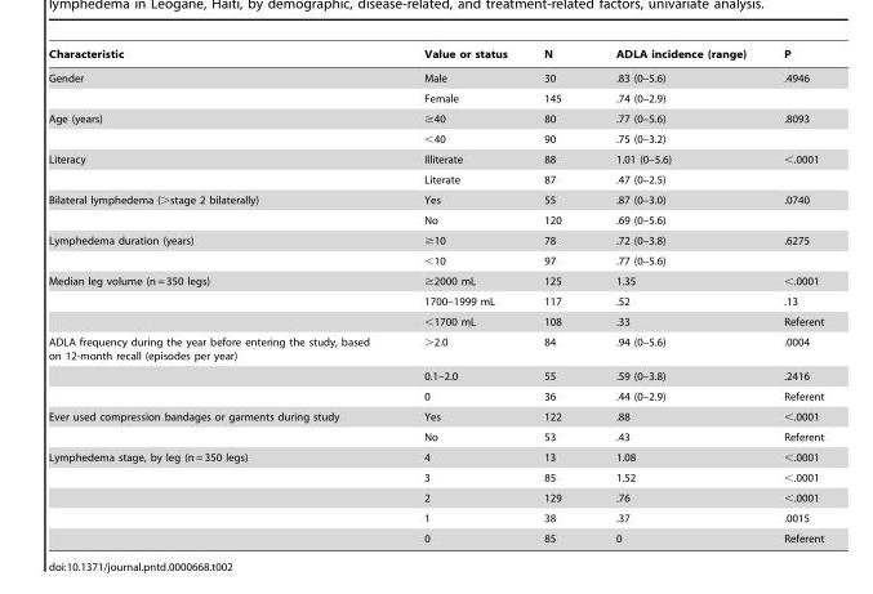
<table><thead><tr><td>Characteristic</td><td>Value or status</td><td>N</td><td>ADLA incidence (range)</td><td>P</td></tr></thead><tbody><tr><td rowspan="2">Gender</td><td>Male</td><td>30</td><td>.83 (0–5.6)</td><td>.4946</td></tr><tr><td>Female</td><td>145</td><td>.74 (0–2.9)</td><td></td></tr><tr><td rowspan="2">Age (years)</td><td>≥40</td><td>80</td><td>.77 (0–5.6)</td><td>.8093</td></tr><tr><td>&lt;40</td><td>90</td><td>.75 (0–3.2)</td><td></td></tr><tr><td rowspan="2">Literacy</td><td>Illiterate</td><td>88</td><td>1.01 (0–5.6)</td><td>&lt;.0001</td></tr><tr><td>Literate</td><td>87</td><td>.47 (0–2.5)</td><td></td></tr><tr><td rowspan="2">Bilateral lymphedema (&gt;stage 2 bilaterally)</td><td>Yes</td><td>55</td><td>.87 (0–3.0)</td><td>.0740</td></tr><tr><td>No</td><td>120</td><td>.69 (0–5.6)</td><td></td></tr><tr><td rowspan="2">Lymphedema duration (years)</td><td>≥10</td><td>78</td><td>.72 (0–3.8)</td><td>.6275</td></tr><tr><td>&lt;10</td><td>97</td><td>.77 (0–5.6)</td><td></td></tr><tr><td rowspan="3">Median leg volume (n = 350 legs)</td><td>≥2000 mL</td><td>125</td><td>1.35</td><td>&lt;.0001</td></tr><tr><td>1700–1999 mL</td><td>117</td><td>.52</td><td>.13</td></tr><tr><td>&lt;1700 mL</td><td>108</td><td>.33</td><td>Referent</td></tr><tr><td rowspan="3">ADLA frequency during the year before entering the study, based on 12-month recall (episodes per year)</td><td>&gt;2.0</td><td>84</td><td>.94 (0–5.6)</td><td>.0004</td></tr><tr><td>0.1–2.0</td><td>55</td><td>.59 (0–3.8)</td><td>.2416</td></tr><tr><td>0</td><td>36</td><td>.44 (0–2.9)</td><td>Referent</td></tr><tr><td rowspan="2">Ever used compression bandages or garments during study</td><td>Yes</td><td>122</td><td>.88</td><td>&lt;.0001</td></tr><tr><td>No</td><td>53</td><td>.43</td><td>Referent</td></tr><tr><td rowspan="5">Lymphedema stage, by leg (n = 350 legs)</td><td>4</td><td>13</td><td>1.08</td><td>&lt;.0001</td></tr><tr><td>3</td><td>85</td><td>1.52</td><td>&lt;.0001</td></tr><tr><td>2</td><td>129</td><td>.76</td><td>&lt;.0001</td></tr><tr><td>1</td><td>38</td><td>.37</td><td>.0015</td></tr><tr><td>0</td><td>85</td><td>0</td><td>Referent</td></tr></tbody></table>